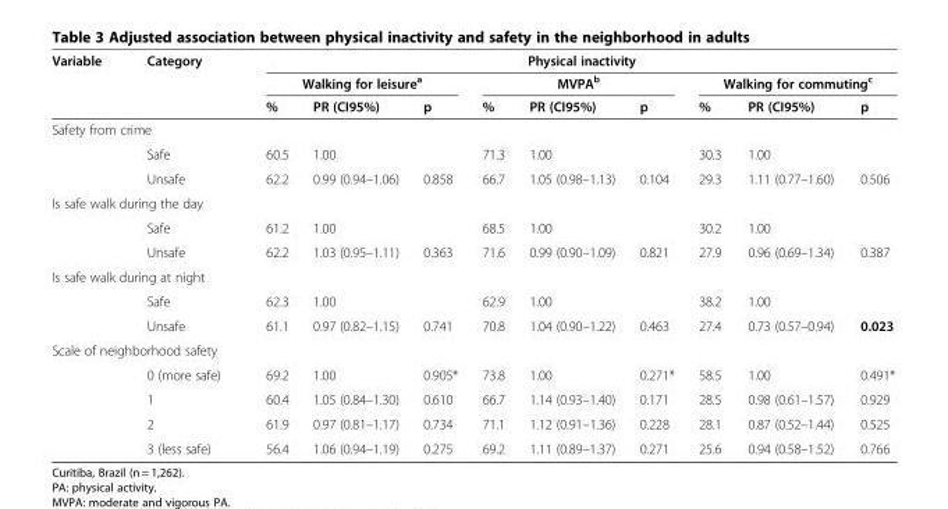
<table><thead><tr><td rowspan="3">Variable</td><td rowspan="3">Category</td><td colspan="9">Physical inactivity</td></tr><tr><td colspan="3">Walking for leisure<sup>a</sup></td><td colspan="3">MVPA<sup>b</sup></td><td colspan="3">Walking for commuting<sup>c</sup></td></tr><tr><td>%</td><td>PR (CI95%)</td><td>p</td><td>%</td><td>PR (CI95%)</td><td>p</td><td>%</td><td>PR (CI95%)</td><td>p</td></tr></thead><tbody><tr><td colspan="11">Safety from crime</td></tr><tr><td></td><td>Safe</td><td>60.5</td><td>1.00</td><td></td><td>71.3</td><td>1.00</td><td></td><td>30.3</td><td>1.00</td><td></td></tr><tr><td></td><td>Unsafe</td><td>62.2</td><td>0.99 (0.94–1.06)</td><td>0.858</td><td>66.7</td><td>1.05 (0.98–1.13)</td><td>0.104</td><td>29.3</td><td>1.11 (0.77–1.60)</td><td>0.506</td></tr><tr><td colspan="11">Is safe walk during the day</td></tr><tr><td></td><td>Safe</td><td>61.2</td><td>1.00</td><td></td><td>68.5</td><td>1.00</td><td></td><td>30.2</td><td>1.00</td><td></td></tr><tr><td></td><td>Unsafe</td><td>62.2</td><td>1.03 (0.95–1.11)</td><td>0.363</td><td>71.6</td><td>0.99 (0.90–1.09)</td><td>0.821</td><td>27.9</td><td>0.96 (0.69–1.34)</td><td>0.387</td></tr><tr><td colspan="11">Is safe walk during at night</td></tr><tr><td></td><td>Safe</td><td>62.3</td><td>1.00</td><td></td><td>62.9</td><td>1.00</td><td></td><td>38.2</td><td>1.00</td><td></td></tr><tr><td></td><td>Unsafe</td><td>61.1</td><td>0.97 (0.82–1.15)</td><td>0.741</td><td>70.8</td><td>1.04 (0.90–1.22)</td><td>0.463</td><td>27.4</td><td>0.73 (0.57–0.94)</td><td>0.023</td></tr><tr><td colspan="11">Scale of neighborhood safety</td></tr><tr><td></td><td>0 (more safe)</td><td>69.2</td><td>1.00</td><td>0.905*</td><td>73.8</td><td>1.00</td><td>0.271*</td><td>58.5</td><td>1.00</td><td>0.491*</td></tr><tr><td></td><td>1</td><td>60.4</td><td>1.05 (0.84–1.30)</td><td>0.610</td><td>66.7</td><td>1.14 (0.93–1.40)</td><td>0.171</td><td>28.5</td><td>0.98 (0.61–1.57)</td><td>0.929</td></tr><tr><td></td><td>2</td><td>61.9</td><td>0.97 (0.81–1.17)</td><td>0.734</td><td>71.1</td><td>1.12 (0.91–1.36)</td><td>0.228</td><td>28.1</td><td>0.87 (0.52–1.44)</td><td>0.525</td></tr><tr><td></td><td>3 (less safe)</td><td>56.4</td><td>1.06 (0.94–1.19)</td><td>0.275</td><td>69.2</td><td>1.11 (0.89–1.37)</td><td>0.271</td><td>25.6</td><td>0.94 (0.58–1.52)</td><td>0.766</td></tr></tbody></table>